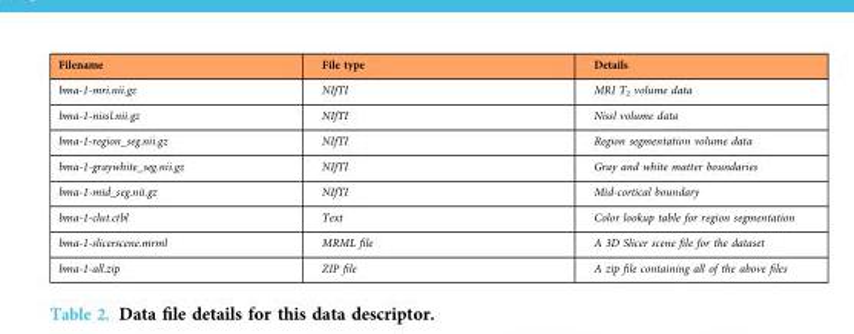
<table><thead><tr><td>Filename</td><td>File type</td><td>Details</td></tr></thead><tbody><tr><td>bma-1-mri.nii.gz</td><td>NIfTI</td><td>MRI T<sub>2</sub> volume data</td></tr><tr><td>bma-1-nissl.nii.gz</td><td>NIfTI</td><td>Nissl volume data</td></tr><tr><td>bma-1-region_seg.nii.gz</td><td>NIfTI</td><td>Region segmentation volume data</td></tr><tr><td>bma-1-graywhite_seg.nii.gz</td><td>NIfTI</td><td>Gray and white matter boundaries</td></tr><tr><td>bma-1-mid_seg.nii.gz</td><td>NIfTI</td><td>Mid-cortical boundary</td></tr><tr><td>bma-1-clut.ctbl</td><td>Text</td><td>Color lookup table for region segmentation</td></tr><tr><td>bma-1-slicerscene.mrml</td><td>MRML file</td><td>A 3D Slicer scene file for the dataset</td></tr><tr><td>bma-1-all.zip</td><td>ZIP file</td><td>A zip file containing all of the above files</td></tr></tbody></table>